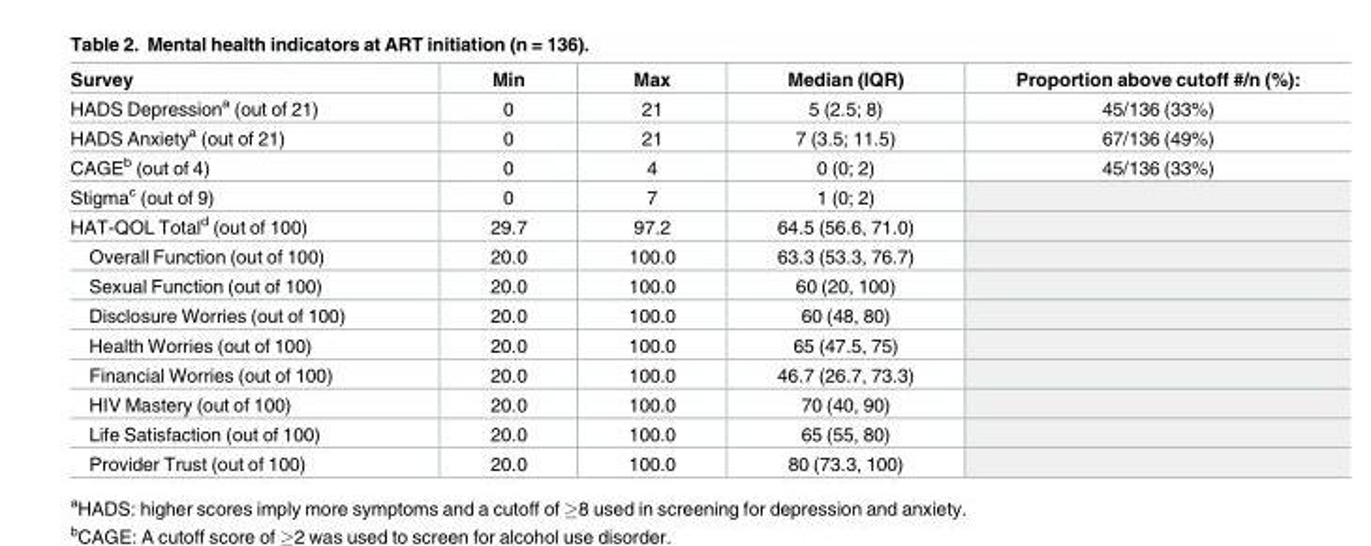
<table><thead><tr><td>Survey</td><td>Min</td><td>Max</td><td>Median (IQR)</td><td>Proportion above cutoff #/n (%):</td></tr></thead><tbody><tr><td>HADS Depression<sup>a</sup> (out of 21)</td><td>0</td><td>21</td><td>5 (2.5; 8)</td><td>45/136 (33%)</td></tr><tr><td>HADS Anxiety<sup>a</sup> (out of 21)</td><td>0</td><td>21</td><td>7 (3.5; 11.5)</td><td>67/136 (49%)</td></tr><tr><td>CAGE<sup>b</sup> (out of 4)</td><td>0</td><td>4</td><td>0 (0; 2)</td><td>45/136 (33%)</td></tr><tr><td>Stigma<sup>c</sup> (out of 9)</td><td>0</td><td>7</td><td>1 (0; 2)</td><td></td></tr><tr><td>HAT-QOL Total<sup>d</sup> (out of 100)</td><td>29.7</td><td>97.2</td><td>64.5 (56.6, 71.0)</td><td></td></tr><tr><td>Overall Function (out of 100)</td><td>20.0</td><td>100.0</td><td>63.3 (53.3, 76.7)</td><td></td></tr><tr><td>Sexual Function (out of 100)</td><td>20.0</td><td>100.0</td><td>60 (20, 100)</td><td></td></tr><tr><td>Disclosure Worries (out of 100)</td><td>20.0</td><td>100.0</td><td>60 (48, 80)</td><td></td></tr><tr><td>Health Worries (out of 100)</td><td>20.0</td><td>100.0</td><td>65 (47.5, 75)</td><td></td></tr><tr><td>Financial Worries (out of 100)</td><td>20.0</td><td>100.0</td><td>46.7 (26.7, 73.3)</td><td></td></tr><tr><td>HIV Mastery (out of 100)</td><td>20.0</td><td>100.0</td><td>70 (40, 90)</td><td></td></tr><tr><td>Life Satisfaction (out of 100)</td><td>20.0</td><td>100.0</td><td>65 (55, 80)</td><td></td></tr><tr><td>Provider Trust (out of 100)</td><td>20.0</td><td>100.0</td><td>80 (73.3, 100)</td><td></td></tr></tbody></table>